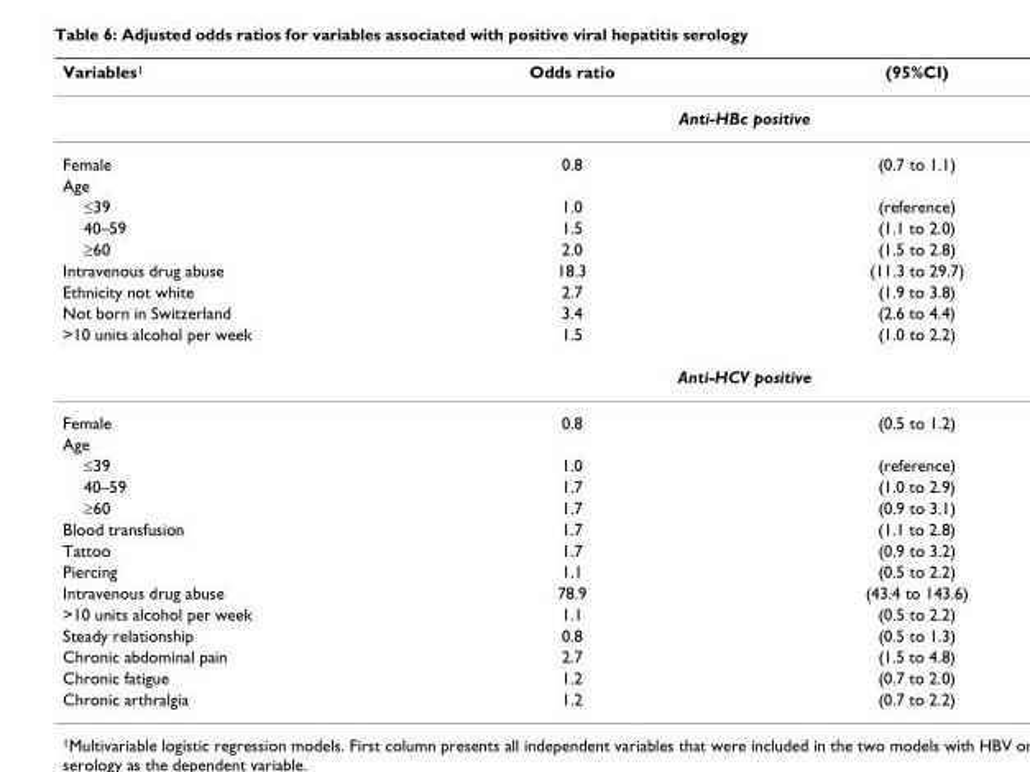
<table><thead><tr><td>Variables1</td><td>Odds ratio</td><td>(95%CI)</td></tr></thead><tbody><tr><td></td><td colspan="2">Anti-HBc positive</td></tr><tr><td>Female</td><td>0.8</td><td>(0.7 to 1.1)</td></tr><tr><td colspan="3">Age</td></tr><tr><td>≤39</td><td>1.0</td><td>(reference)</td></tr><tr><td>40–59</td><td>1.5</td><td>(1.1 to 2.0)</td></tr><tr><td>≥60</td><td>2.0</td><td>(1.5 to 2.8)</td></tr><tr><td>Intravenous drug abuse</td><td>18.3</td><td>(11.3 to 29.7)</td></tr><tr><td>Ethnicity not white</td><td>2.7</td><td>(1.9 to 3.8)</td></tr><tr><td>Not born in Switzerland</td><td>3.4</td><td>(2.6 to 4.4)</td></tr><tr><td rowspan="2">&gt;10 units alcohol per week</td><td>1.5</td><td>(1.0 to 2.2)</td></tr><tr><td colspan="2">Anti-HCV positive</td></tr><tr><td>Female</td><td>0.8</td><td>(0.5 to 1.2)</td></tr><tr><td colspan="3">Age</td></tr><tr><td>≤39</td><td>1.0</td><td>(reference)</td></tr><tr><td>40–59</td><td>1.7</td><td>(1.0 to 2.9)</td></tr><tr><td>≥60</td><td>1.7</td><td>(0.9 to 3.1)</td></tr><tr><td>Blood transfusion</td><td>1.7</td><td>(1.1 to 2.8)</td></tr><tr><td>Tattoo</td><td>1.7</td><td>(0.9 to 3.2)</td></tr><tr><td>Piercing</td><td>1.1</td><td>(0.5 to 2.2)</td></tr><tr><td>Intravenous drug abuse</td><td>78.9</td><td>(43.4 to 143.6)</td></tr><tr><td>&gt;10 units alcohol per week</td><td>1.1</td><td>(0.5 to 2.2)</td></tr><tr><td>Steady relationship</td><td>0.8</td><td>(0.5 to 1.3)</td></tr><tr><td>Chronic abdominal pain</td><td>2.7</td><td>(1.5 to 4.8)</td></tr><tr><td>Chronic fatigue</td><td>1.2</td><td>(0.7 to 2.0)</td></tr><tr><td>Chronic arthralgia</td><td>1.2</td><td>(0.7 to 2.2)</td></tr></tbody></table>